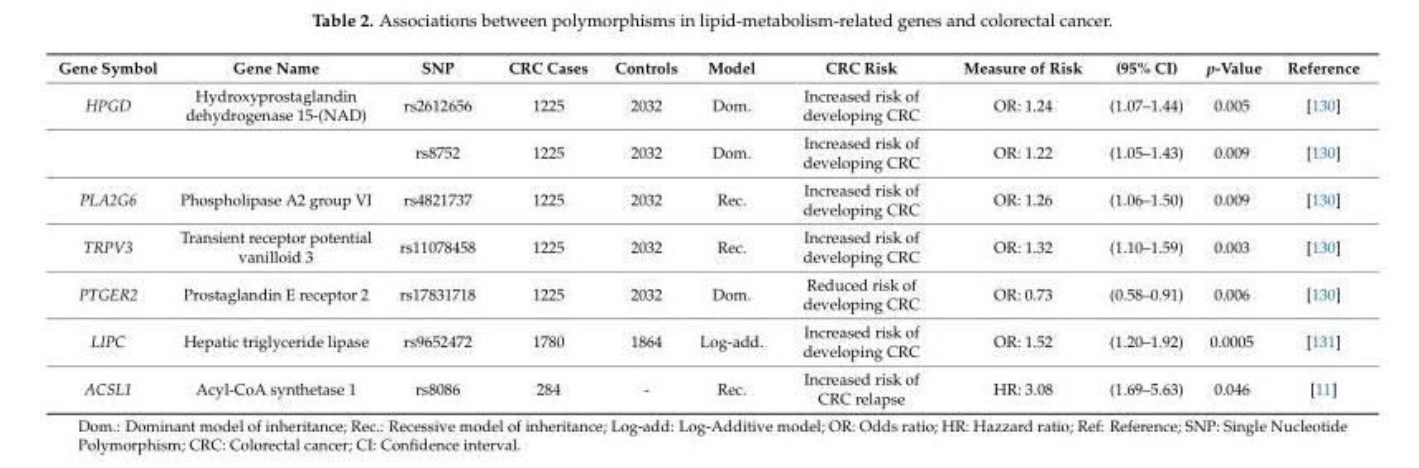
<table><thead><tr><td>Gene Symbol</td><td>Gene Name</td><td>SNP</td><td>CRC Cases</td><td>Controls</td><td>Model</td><td>CRC Risk</td><td>Measure of Risk</td><td>(95% CI)</td><td>p-Value</td><td>Reference</td></tr></thead><tbody><tr><td rowspan="2">HPGD</td><td>Hydroxyprostaglandin dehydrogenase 15-(NAD)</td><td>rs2612656</td><td>1225</td><td>2032</td><td>Dom.</td><td>Increased risk of developing CRC</td><td>OR: 1.24</td><td>(1.07–1.44)</td><td>0.005</td><td>[130]</td></tr><tr><td></td><td>rs8752</td><td>1225</td><td>2032</td><td>Dom.</td><td>Increased risk of developing CRC</td><td>OR: 1.22</td><td>(1.05–1.43)</td><td>0.009</td><td>[130]</td></tr><tr><td>PLA2G6</td><td>Phospholipase A2 group VI</td><td>rs4821737</td><td>1225</td><td>2032</td><td>Rec.</td><td>Increased risk of developing CRC</td><td>OR: 1.26</td><td>(1.06–1.50)</td><td>0.009</td><td>[130]</td></tr><tr><td>TRPV3</td><td>Transient receptor potential vanilloid 3</td><td>rs11078458</td><td>1225</td><td>2032</td><td>Rec.</td><td>Increased risk of developing CRC</td><td>OR: 1.32</td><td>(1.10–1.59)</td><td>0.003</td><td>[130]</td></tr><tr><td>PTGER2</td><td>Prostaglandin E receptor 2</td><td>rs17831718</td><td>1225</td><td>2032</td><td>Dom.</td><td>Reduced risk of developing CRC</td><td>OR: 0.73</td><td>(0.58–0.91)</td><td>0.006</td><td>[130]</td></tr><tr><td>LIPC</td><td>Hepatic triglyceride lipase</td><td>rs9652472</td><td>1780</td><td>1864</td><td>Log-add.</td><td>Increased risk of developing CRC</td><td>OR: 1.52</td><td>(1.20–1.92)</td><td>0.0005</td><td>[131]</td></tr><tr><td>ACSL1</td><td>Acyl-CoA synthetase 1</td><td>rs8086</td><td>284</td><td>-</td><td>Rec.</td><td>Increased risk of CRC relapse</td><td>HR: 3.08</td><td>(1.69–5.63)</td><td>0.046</td><td>[11]</td></tr></tbody></table>